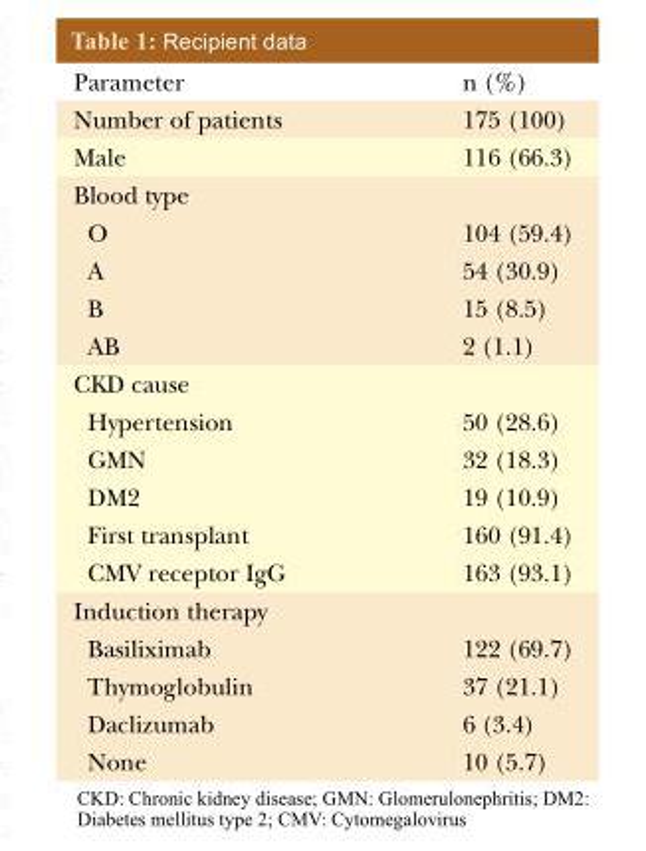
<table><thead><tr><td>Parameter</td><td>n (%)</td></tr></thead><tbody><tr><td>Number of patients</td><td>175 (100)</td></tr><tr><td>Male</td><td>116 (66.3)</td></tr><tr><td colspan="2">Blood type</td></tr><tr><td>O</td><td>104 (59.4)</td></tr><tr><td>A</td><td>54 (30.9)</td></tr><tr><td>B</td><td>15 (8.5)</td></tr><tr><td>AB</td><td>2 (1.1)</td></tr><tr><td colspan="2">CKD cause</td></tr><tr><td>Hypertension</td><td>50 (28.6)</td></tr><tr><td>GMN</td><td>32 (18.3)</td></tr><tr><td>DM2</td><td>19 (10.9)</td></tr><tr><td>First transplant</td><td>160 (91.4)</td></tr><tr><td>CMV receptor IgG</td><td>163 (93.1)</td></tr><tr><td colspan="2">Induction therapy</td></tr><tr><td>Basiliximab</td><td>122 (69.7)</td></tr><tr><td>Thymoglobulin</td><td>37 (21.1)</td></tr><tr><td>Daclizumab</td><td>6 (3.4)</td></tr><tr><td>None</td><td>10 (5.7)</td></tr></tbody></table>